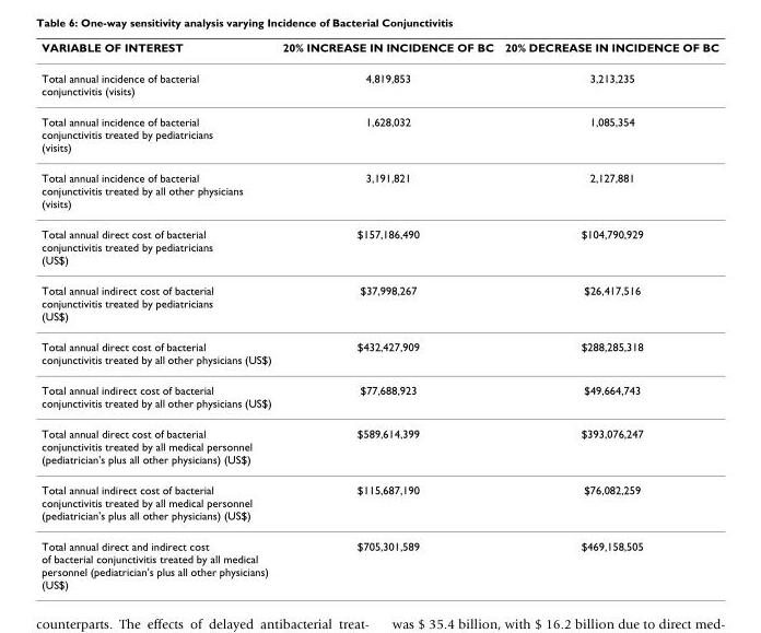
<table><thead><tr><td>VARIABLE OF INTEREST</td><td>20% INCREASE IN INCIDENCE OF BC</td><td>20% DECREASE IN INCIDENCE OF BC</td></tr></thead><tbody><tr><td>Total annual incidence of bacterial conjunctivitis (visits)</td><td>4,819,853</td><td>3,213,235</td></tr><tr><td>Total annual incidence of bacterial conjunctivitis treated by pediatricians (visits)</td><td>1,628,032</td><td>1,085,354</td></tr><tr><td>Total annual incidence of bacterial conjunctivitis treated by all other physicians (visits)</td><td>3,191,821</td><td>2,127,881</td></tr><tr><td>Total annual direct cost of bacterial conjunctivitis treated by pediatricians (US$)</td><td>$157,186,490</td><td>$104,790,929</td></tr><tr><td>Total annual indirect cost of bacterial conjunctivitis treated by pediatricians (US$)</td><td>$37,998,267</td><td>$26,417,516</td></tr><tr><td>Total annual direct cost of bacterial conjunctivitis treated by all other physicians (US$)</td><td>$432,427,909</td><td>$288,285,318</td></tr><tr><td>Total annual indirect cost of bacterial conjunctivitis treated by all other physicians (US$)</td><td>$77,688,923</td><td>$49,664,743</td></tr><tr><td>Total annual direct cost of bacterial conjunctivitis treated by all medical personnel (pediatrician&#x27;s plus all other physicians) (US$)</td><td>$589,614,399</td><td>$393,076,247</td></tr><tr><td>Total annual indirect cost of bacterial conjunctivitis treated by all medical personnel (pediatrician&#x27;s plus all other physicians) (US$)</td><td>$115,687,190</td><td>$76,082,259</td></tr><tr><td>Total annual direct and indirect cost of bacterial conjunctivitis treated by all medical personnel (pediatrician&#x27;s plus all other physicians) (US$)</td><td>$705,301,589</td><td>$469,158,505</td></tr></tbody></table>